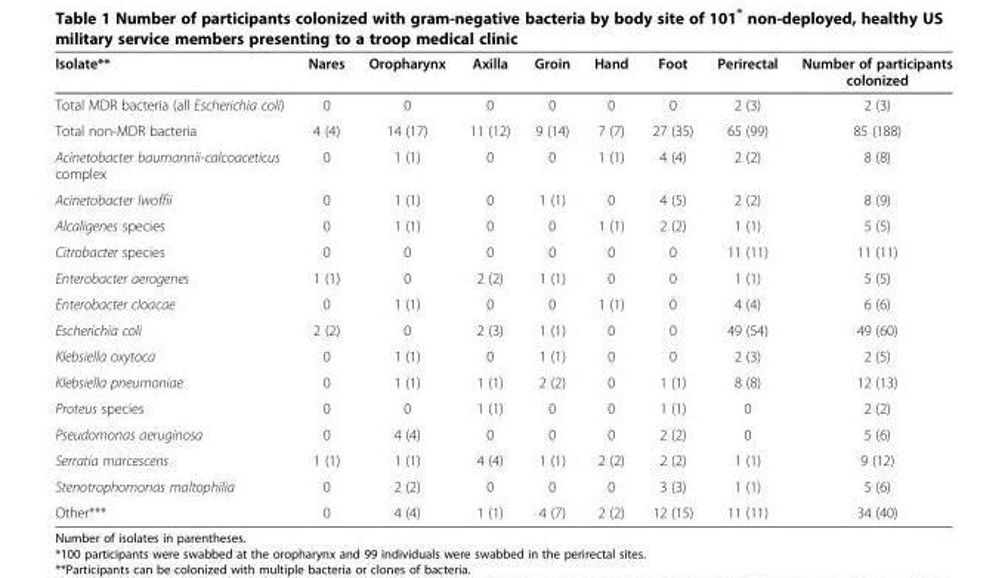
<table><thead><tr><td>Isolate**</td><td>Nares</td><td>Oropharynx</td><td>Axilla</td><td>Groin</td><td>Hand</td><td>Foot</td><td>Perirectal</td><td>Number of participants colonized</td></tr></thead><tbody><tr><td>Total MDR bacteria (all Escherichia coli)</td><td>0</td><td>0</td><td>0</td><td>0</td><td>0</td><td>0</td><td>2 (3)</td><td>2 (3)</td></tr><tr><td>Total non-MDR bacteria</td><td>4 (4)</td><td>14 (17)</td><td>11 (12)</td><td>9 (14)</td><td>7 (7)</td><td>27 (35)</td><td>65 (99)</td><td>85 (188)</td></tr><tr><td>Acinetobacter baumannii-calcoaceticus complex</td><td>0</td><td>1 (1)</td><td>0</td><td>0</td><td>1 (1)</td><td>4 (4)</td><td>2 (2)</td><td>8 (8)</td></tr><tr><td>Acinetobacter lwoffii</td><td>0</td><td>1 (1)</td><td>0</td><td>1 (1)</td><td>0</td><td>4 (5)</td><td>2 (2)</td><td>8 (9)</td></tr><tr><td>Alcaligenes species</td><td>0</td><td>1 (1)</td><td>0</td><td>0</td><td>1 (1)</td><td>2 (2)</td><td>1 (1)</td><td>5 (5)</td></tr><tr><td>Citrobacter species</td><td>0</td><td>0</td><td>0</td><td>0</td><td>0</td><td>0</td><td>11 (11)</td><td>11 (11)</td></tr><tr><td>Enterobacter aerogenes</td><td>1 (1)</td><td>0</td><td>2 (2)</td><td>1 (1)</td><td>0</td><td>0</td><td>1 (1)</td><td>5 (5)</td></tr><tr><td>Enterobacter cloacae</td><td>0</td><td>1 (1)</td><td>0</td><td>0</td><td>1 (1)</td><td>0</td><td>4 (4)</td><td>6 (6)</td></tr><tr><td>Escherichia coli</td><td>2 (2)</td><td>0</td><td>2 (3)</td><td>1 (1)</td><td>0</td><td>0</td><td>49 (54)</td><td>49 (60)</td></tr><tr><td>Klebsiella oxytoca</td><td>0</td><td>1 (1)</td><td>0</td><td>1 (1)</td><td>0</td><td>0</td><td>2 (3)</td><td>2 (5)</td></tr><tr><td>Klebsiella pneumoniae</td><td>0</td><td>1 (1)</td><td>1 (1)</td><td>2 (2)</td><td>0</td><td>1 (1)</td><td>8 (8)</td><td>12 (13)</td></tr><tr><td>Proteus species</td><td>0</td><td>0</td><td>1 (1)</td><td>0</td><td>0</td><td>1 (1)</td><td>0</td><td>2 (2)</td></tr><tr><td>Pseudomonas aeruginosa</td><td>0</td><td>4 (4)</td><td>0</td><td>0</td><td>0</td><td>2 (2)</td><td>0</td><td>5 (6)</td></tr><tr><td>Serratia marcescens</td><td>1 (1)</td><td>1 (1)</td><td>4 (4)</td><td>1 (1)</td><td>2 (2)</td><td>2 (2)</td><td>1 (1)</td><td>9 (12)</td></tr><tr><td>Stenotrophomonas maltophilia</td><td>0</td><td>2 (2)</td><td>0</td><td>0</td><td>0</td><td>3 (3)</td><td>1 (1)</td><td>5 (6)</td></tr><tr><td>Other***</td><td>0</td><td>4 (4)</td><td>1 (1)</td><td>4 (7)</td><td>2 (2)</td><td>12 (15)</td><td>11 (11)</td><td>34 (40)</td></tr></tbody></table>